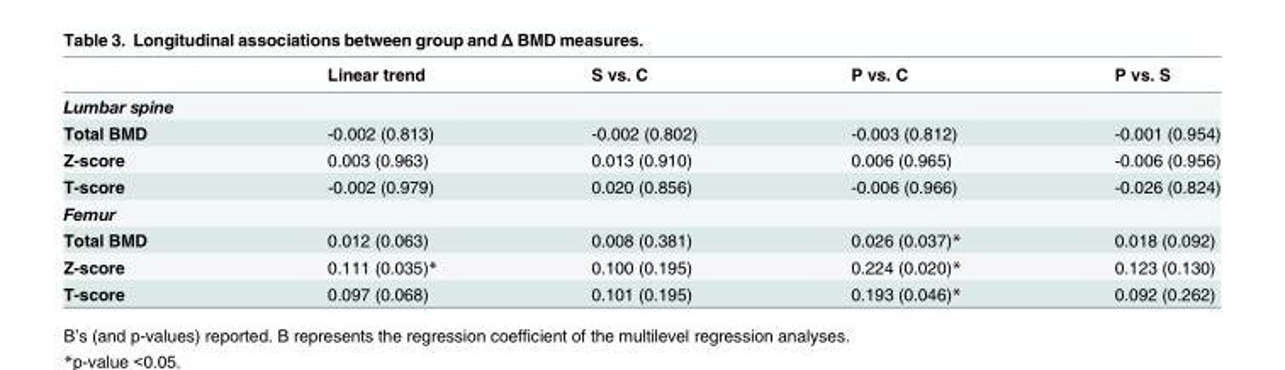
<table><thead><tr><td></td><td>Linear trend</td><td>S vs. C</td><td>P vs. C</td><td>P vs. S</td></tr></thead><tbody><tr><td colspan="5">Lumbar spine</td></tr><tr><td>Total BMD</td><td>-0.002 (0.813)</td><td>-0.002 (0.802)</td><td>-0.003 (0.812)</td><td>-0.001 (0.954)</td></tr><tr><td>Z-score</td><td>0.003 (0.963)</td><td>0.013 (0.910)</td><td>0.006 (0.965)</td><td>-0.006 (0.956)</td></tr><tr><td>T-score</td><td>-0.002 (0.979)</td><td>0.020 (0.856)</td><td>-0.006 (0.966)</td><td>-0.026 (0.824)</td></tr><tr><td colspan="5">Femur</td></tr><tr><td>Total BMD</td><td>0.012 (0.063)</td><td>0.008 (0.381)</td><td>0.026 (0.037)*</td><td>0.018 (0.092)</td></tr><tr><td>Z-score</td><td>0.111 (0.035)*</td><td>0.100 (0.195)</td><td>0.224 (0.020)*</td><td>0.123 (0.130)</td></tr><tr><td>T-score</td><td>0.097 (0.068)</td><td>0.101 (0.195)</td><td>0.193 (0.046)*</td><td>0.092 (0.262)</td></tr></tbody></table>